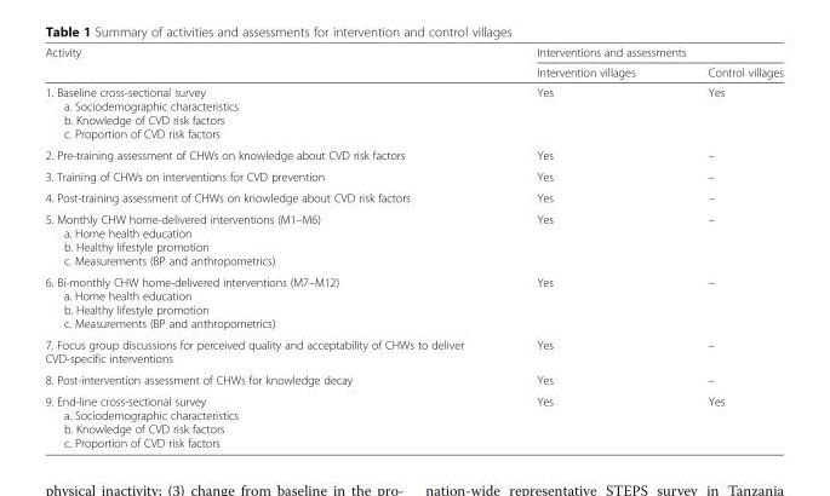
<table><thead><tr><td rowspan="2">Activity</td><td colspan="2">Interventions and assessments</td></tr><tr><td>Intervention villages</td><td>Control villages</td></tr></thead><tbody><tr><td>1. Baseline cross-sectional survey a. Sociodemographic characteristics b. Knowledge of CVD risk factors c. Proportion of CVD risk factors</td><td>Yes</td><td>Yes</td></tr><tr><td>2. Pre-training assessment of CHWs on knowledge about CVD risk factors</td><td>Yes</td><td>–</td></tr><tr><td>3. Training of CHWs on interventions for CVD prevention</td><td>Yes</td><td>–</td></tr><tr><td>4. Post-training assessment of CHWs on knowledge about CVD risk factors</td><td>Yes</td><td>–</td></tr><tr><td>5. Monthly CHW home-delivered interventions (M1–M6) a. Home health education b. Healthy lifestyle promotion c. Measurements (BP and anthropometrics)</td><td>Yes</td><td>–</td></tr><tr><td>6. Bi-monthly CHW home-delivered interventions (M7–M12) a. Home health education b. Healthy lifestyle promotion c. Measurements (BP and anthropometrics)</td><td>Yes</td><td>–</td></tr><tr><td>7. Focus group discussions for perceived quality and acceptability of CHWs to deliver CVD-specific interventions</td><td>Yes</td><td>–</td></tr><tr><td>8. Post-intervention assessment of CHWs for knowledge decay</td><td>Yes</td><td>–</td></tr><tr><td>9. End-line cross-sectional survey a. Sociodemographic characteristics b. Knowledge of CVD risk factors c. Proportion of CVD risk factors</td><td>Yes</td><td>Yes</td></tr></tbody></table>